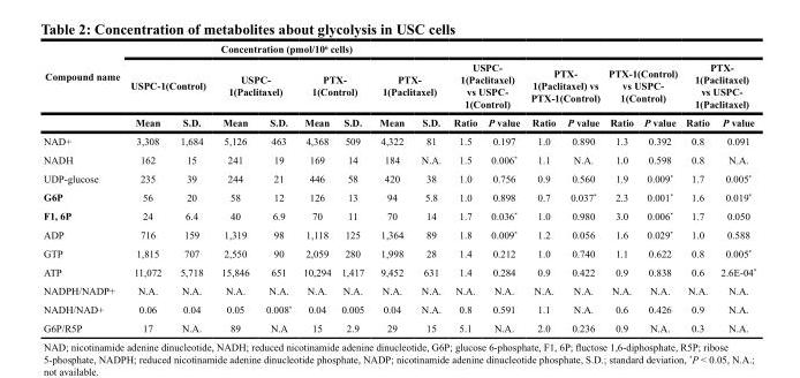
<table><thead><tr><td rowspan="3">Compound name</td><td colspan="8">Concentration (pmol/10<sup>6</sup> cells)</td><td></td><td></td><td></td><td></td><td></td><td></td><td></td><td></td></tr><tr><td colspan="2">USPC-1(Control)</td><td colspan="2">USPC- 1(Paclitaxel)</td><td colspan="2">PTX- 1(Control)</td><td colspan="2">PTX- 1(Paclitaxel)</td><td colspan="2">USPC- 1(Paclitaxel) vs USPC- 1(Control)</td><td colspan="2">PTX- 1(Paclitaxel) vs PTX-1(Control)</td><td colspan="2">PTX-1(Control) vs USPC- 1(Control)</td><td colspan="2">PTX- 1(Paclitaxel) vs USPC- 1(Paclitaxel)</td></tr><tr><td>Mean</td><td>S.D.</td><td>Mean</td><td>S.D.</td><td>Mean</td><td>S.D.</td><td>Mean</td><td>S.D.</td><td>Ratio</td><td>P value</td><td>Ratio</td><td>P value</td><td>Ratio</td><td>P value</td><td>Ratio</td><td>P value</td></tr></thead><tbody><tr><td>NAD+</td><td>3,308</td><td>1,684</td><td>5,126</td><td>463</td><td>4,368</td><td>509</td><td>4,322</td><td>81</td><td>1.5</td><td>0.197</td><td>1.0</td><td>0.890</td><td>1.3</td><td>0.392</td><td>0.8</td><td>0.091</td></tr><tr><td>NADH</td><td>162</td><td>15</td><td>241</td><td>19</td><td>169</td><td>14</td><td>184</td><td>N.A.</td><td>1.5</td><td>0.006*</td><td>1.1</td><td>N.A.</td><td>1.0</td><td>0.598</td><td>0.8</td><td>N.A.</td></tr><tr><td>UDP-glucose</td><td>235</td><td>39</td><td>244</td><td>21</td><td>446</td><td>58</td><td>420</td><td>38</td><td>1.0</td><td>0.756</td><td>0.9</td><td>0.560</td><td>1.9</td><td>0.009*</td><td>1.7</td><td>0.005*</td></tr><tr><td>G6P</td><td>56</td><td>20</td><td>58</td><td>12</td><td>126</td><td>13</td><td>94</td><td>5.8</td><td>1.0</td><td>0.898</td><td>0.7</td><td>0.037*</td><td>2.3</td><td>0.001*</td><td>1.6</td><td>0.019*</td></tr><tr><td>F1, 6P</td><td>24</td><td>6.4</td><td>40</td><td>6.9</td><td>70</td><td>11</td><td>70</td><td>14</td><td>1.7</td><td>0.036*</td><td>1.0</td><td>0.980</td><td>3.0</td><td>0.006*</td><td>1.7</td><td>0.050</td></tr><tr><td>ADP</td><td>716</td><td>159</td><td>1,319</td><td>98</td><td>1,118</td><td>125</td><td>1,364</td><td>89</td><td>1.8</td><td>0.009*</td><td>1.2</td><td>0.056</td><td>1.6</td><td>0.029*</td><td>1.0</td><td>0.588</td></tr><tr><td>GTP</td><td>1,815</td><td>707</td><td>2,550</td><td>90</td><td>2,059</td><td>280</td><td>1,998</td><td>28</td><td>1.4</td><td>0.212</td><td>1.0</td><td>0.740</td><td>1.1</td><td>0.622</td><td>0.8</td><td>0.005*</td></tr><tr><td>ATP</td><td>11,072</td><td>5,718</td><td>15,846</td><td>651</td><td>10,294</td><td>1,417</td><td>9,452</td><td>631</td><td>1.4</td><td>0.284</td><td>0.9</td><td>0.422</td><td>0.9</td><td>0.838</td><td>0.6</td><td>2.6E-04*</td></tr><tr><td>NADPH/NADP+</td><td>N.A.</td><td>N.A.</td><td>N.A.</td><td>N.A.</td><td>N.A.</td><td>N.A.</td><td>N.A.</td><td>N.A.</td><td>N.A.</td><td>N.A.</td><td>N.A.</td><td>N.A.</td><td>N.A.</td><td>N.A.</td><td>N.A.</td><td>N.A.</td></tr><tr><td>NADH/NAD+</td><td>0.06</td><td>0.04</td><td>0.05</td><td>0.008*</td><td>0.04</td><td>0.005</td><td>0.04</td><td>N.A.</td><td>0.8</td><td>0.591</td><td>1.1</td><td>N.A.</td><td>0.6</td><td>0.426</td><td>0.9</td><td>N.A.</td></tr><tr><td>G6P/R5P</td><td>17</td><td>N.A.</td><td>89</td><td>N.A</td><td>15</td><td>2.9</td><td>29</td><td>15</td><td>5.1</td><td>N.A.</td><td>2.0</td><td>0.236</td><td>0.9</td><td>N.A.</td><td>0.3</td><td>N.A.</td></tr></tbody></table>